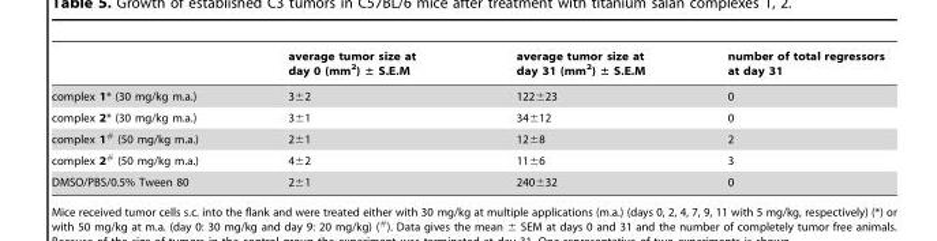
<table><thead><tr><td></td><td>average tumor size at day 0 (mm<sup>2</sup>) ± S.E.M</td><td>average tumor size at day 31 (mm<sup>2</sup>) ± S.E.M</td><td>number of total regressors at day 31</td></tr></thead><tbody><tr><td>complex 1* (30 mg/kg m.a.)</td><td>3±2</td><td>122±23</td><td>0</td></tr><tr><td>complex 2* (30 mg/kg m.a.)</td><td>3±1</td><td>34±12</td><td>0</td></tr><tr><td>complex 1<sup>#</sup> (50 mg/kg m.a.)</td><td>2±1</td><td>12±8</td><td>2</td></tr><tr><td>complex 2<sup>#</sup> (50 mg/kg m.a.)</td><td>4±2</td><td>11±6</td><td>3</td></tr><tr><td>DMSO/PBS/0.5% Tween 80</td><td>2±1</td><td>240±32</td><td>0</td></tr></tbody></table>